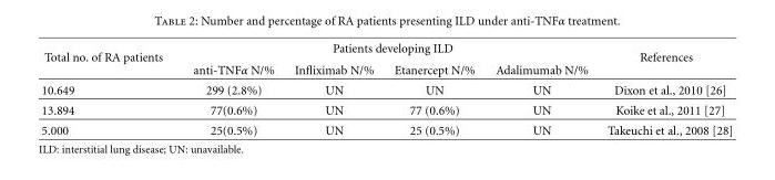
<table><thead><tr><td rowspan="2">Total no. of RA patients</td><td colspan="4">Patients developing ILD</td><td rowspan="2">References</td></tr><tr><td>anti-TNFα N/%</td><td>Infliximab N/%</td><td>Etanercept N/%</td><td>Adalimumab N/%</td></tr></thead><tbody><tr><td>10.649</td><td>299 (2.8%)</td><td>UN</td><td>UN</td><td>UN</td><td>Dixon et al., 2010 [26]</td></tr><tr><td>13.894</td><td>77(0.6%)</td><td>UN</td><td>77 (0.6%)</td><td>UN</td><td>Koike et al., 2011 [27]</td></tr><tr><td>5.000</td><td>25(0.5%)</td><td>UN</td><td>25 (0.5%)</td><td>UN</td><td>Takeuchi et al., 2008 [28]</td></tr></tbody></table>